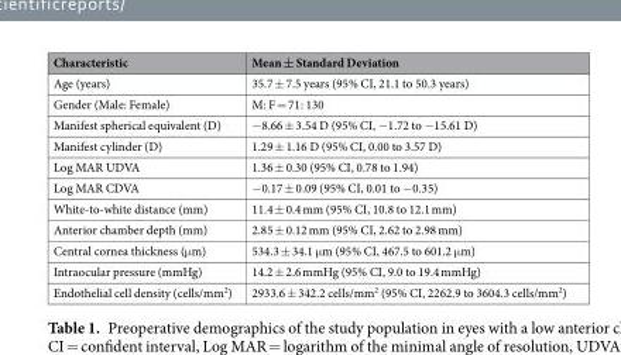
<table><thead><tr><td>Characteristic</td><td>Mean ± Standard Deviation</td></tr></thead><tbody><tr><td>Age (years)</td><td>35.7 ± 7.5 years (95% CI, 21.1 to 50.3 years)</td></tr><tr><td>Gender (Male: Female)</td><td>M: F = 71: 130</td></tr><tr><td>Manifest spherical equivalent (D)</td><td>−8.66 ± 3.54 D (95% CI, −1.72 to −15.61 D)</td></tr><tr><td>Manifest cylinder (D)</td><td>1.29 ± 1.16 D (95% CI, 0.00 to 3.57 D)</td></tr><tr><td>Log MAR UDVA</td><td>1.36 ± 0.30 (95% CI, 0.78 to 1.94)</td></tr><tr><td>Log MAR CDVA</td><td>−0.17 ± 0.09 (95% CI, 0.01 to −0.35)</td></tr><tr><td>White-to-white distance (mm)</td><td>11.4 ± 0.4 mm (95% CI, 10.8 to 12.1 mm)</td></tr><tr><td>Anterior chamber depth (mm)</td><td>2.85 ± 0.12 mm (95% CI, 2.62 to 2.98 mm)</td></tr><tr><td>Central cornea thickness (μm)</td><td>534.3 ± 34.1 μm (95% CI, 467.5 to 601.2 μm)</td></tr><tr><td>Intraocular pressure (mmHg)</td><td>14.2 ± 2.6 mmHg (95% CI, 9.0 to 19.4 mmHg)</td></tr><tr><td>Endothelial cell density (cells/mm<sup>2</sup>)</td><td>2933.6 ± 342.2 cells/mm<sup>2</sup> (95% CI, 2262.9 to 3604.3 cells/mm<sup>2</sup>)</td></tr></tbody></table>